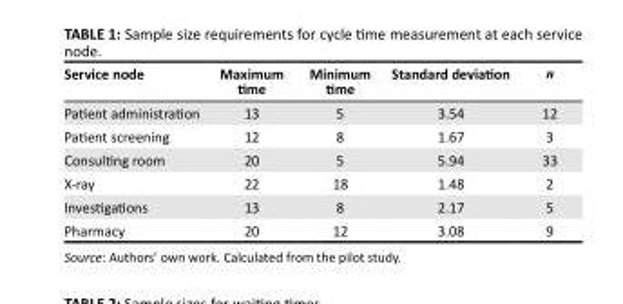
<table><thead><tr><td>Service node</td><td>Maximum time</td><td>Minimum time</td><td>Standard deviation</td><td>n</td></tr></thead><tbody><tr><td>Patient administration</td><td>13</td><td>5</td><td>3.54</td><td>12</td></tr><tr><td>Patient screening</td><td>12</td><td>8</td><td>1.67</td><td>3</td></tr><tr><td>Consulting room</td><td>20</td><td>5</td><td>5.94</td><td>33</td></tr><tr><td>X-ray</td><td>22</td><td>18</td><td>1.48</td><td>2</td></tr><tr><td>Investigations</td><td>13</td><td>8</td><td>2.17</td><td>5</td></tr><tr><td>Pharmacy</td><td>20</td><td>12</td><td>3.08</td><td>9</td></tr></tbody></table>